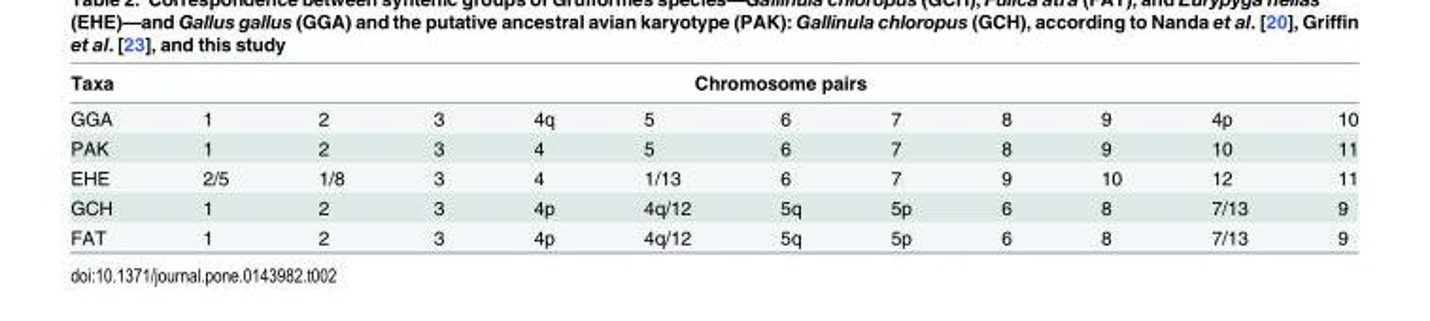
<table><thead><tr><td rowspan="2">Taxa GGA</td><td colspan="11">Chromosome pairs</td></tr><tr><td>1</td><td>2</td><td>3</td><td>4q</td><td>5</td><td>6</td><td>7</td><td>8</td><td>9</td><td>4p</td><td>10</td></tr></thead><tbody><tr><td>PAK</td><td>1</td><td>2</td><td>3</td><td>4</td><td>5</td><td>6</td><td>7</td><td>8</td><td>9</td><td>10</td><td>11</td></tr><tr><td>EHE</td><td>2/5</td><td>1/8</td><td>3</td><td>4</td><td>1/13</td><td>6</td><td>7</td><td>9</td><td>10</td><td>12</td><td>11</td></tr><tr><td>GCH</td><td>1</td><td>2</td><td>3</td><td>4p</td><td>4q/12</td><td>5q</td><td>5p</td><td>6</td><td>8</td><td>7/13</td><td>9</td></tr><tr><td>FAT</td><td>1</td><td>2</td><td>3</td><td>4p</td><td>4q/12</td><td>5q</td><td>5p</td><td>6</td><td>8</td><td>7/13</td><td>9</td></tr></tbody></table>